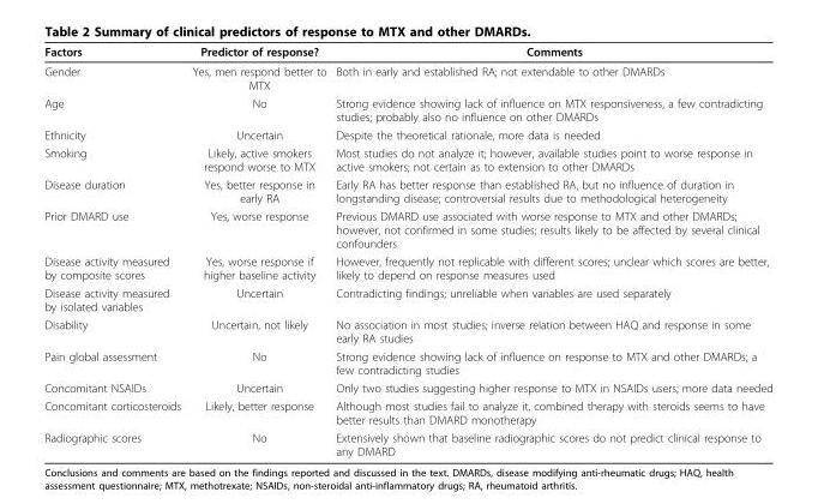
<table><thead><tr><td>Factors</td><td>Predictor of response?</td><td>Comments</td></tr></thead><tbody><tr><td>Gender</td><td>Yes, men respond better to MTX</td><td>Both in early and established RA; not extendable to other DMARDs</td></tr><tr><td>Age</td><td>No</td><td>Strong evidence showing lack of influence on MTX responsiveness, a few contradicting studies; probably also no influence on other DMARDs</td></tr><tr><td>Ethnicity</td><td>Uncertain</td><td>Despite the theoretical rationale, more data is needed</td></tr><tr><td>Smoking</td><td>Likely, active smokers respond worse to MTX</td><td>Most studies do not analyze it; however, available studies point to worse response in active smokers; not certain as to extension to other DMARDs</td></tr><tr><td>Disease duration</td><td>Yes, better response in early RA</td><td>Early RA has better response than established RA, but no influence of duration in longstanding disease; controversial results due to methodological heterogeneity</td></tr><tr><td>Prior DMARD use</td><td>Yes, worse response</td><td>Previous DMARD use associated with worse response to MTX and other DMARDs; however, not confirmed in some studies; results likely to be affected by several clinical confounders</td></tr><tr><td>Disease activity measured by composite scores</td><td>Yes, worse response if higher baseline activity</td><td>However, frequently not replicable with different scores; unclear which scores are better, likely to depend on response measures used</td></tr><tr><td>Disease activity measured by isolated variables</td><td>Uncertain</td><td>Contradicting findings; unreliable when variables are used separately</td></tr><tr><td>Disability</td><td>Uncertain, not likely</td><td>No association in most studies; inverse relation between HAQ and response in some early RA studies</td></tr><tr><td>Pain global assessment</td><td>No</td><td>Strong evidence showing lack of influence on response to MTX and other DMARDs; a few contradicting studies</td></tr><tr><td>Concomitant NSAIDs</td><td>Uncertain</td><td>Only two studies suggesting higher response to MTX in NSAIDs users; more data needed</td></tr><tr><td>Concomitant corticosteroids</td><td>Likely, better response</td><td>Although most studies fail to analyze it, combined therapy with steroids seems to have better results than DMARD monotherapy</td></tr><tr><td>Radiographic scores</td><td>No</td><td>Extensively shown that baseline radiographic scores do not predict clinical response to any DMARD</td></tr></tbody></table>